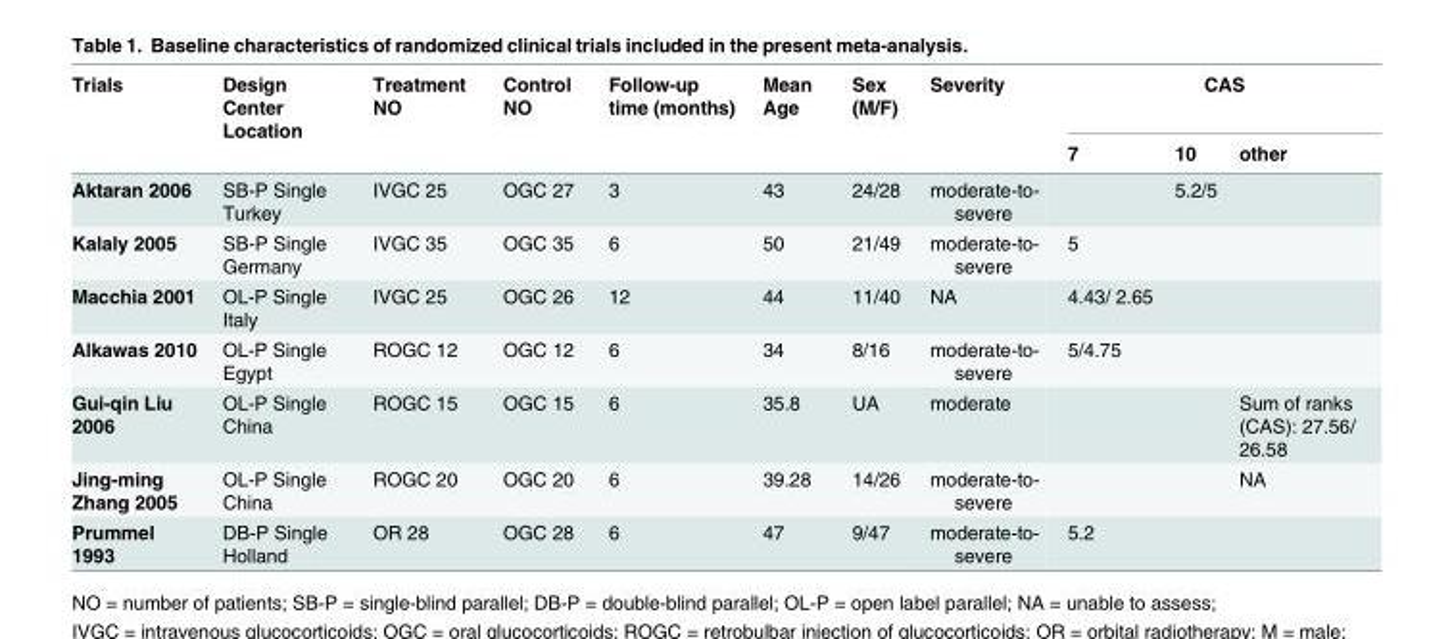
<table><thead><tr><td rowspan="2">Trials</td><td rowspan="2">Design Center Location</td><td rowspan="2">Treatment NO</td><td rowspan="2">Control NO</td><td rowspan="2">Follow-up time (months)</td><td rowspan="2">Mean Age</td><td rowspan="2">Sex (M/F)</td><td rowspan="2">Severity</td><td colspan="3">CAS</td></tr><tr><td>7</td><td>10</td><td>other</td></tr></thead><tbody><tr><td>Aktaran 2006</td><td>SB-P Single Turkey</td><td>IVGC 25</td><td>OGC 27</td><td>3</td><td>43</td><td>24/28</td><td>moderate-to- severe</td><td></td><td>5.2/5</td><td></td></tr><tr><td>Kalaly 2005</td><td>SB-P Single Germany</td><td>IVGC 35</td><td>OGC 35</td><td>6</td><td>50</td><td>21/49</td><td>moderate-to- severe</td><td>5</td><td></td><td></td></tr><tr><td>Macchia 2001</td><td>OL-P Single Italy</td><td>IVGC 25</td><td>OGC 26</td><td>12</td><td>44</td><td>11/40</td><td>NA</td><td>4.43/ 2.65</td><td></td><td></td></tr><tr><td>Alkawas 2010</td><td>OL-P Single Egypt</td><td>ROGC 12</td><td>OGC 12</td><td>6</td><td>34</td><td>8/16</td><td>moderate-to- severe</td><td>5/4.75</td><td></td><td></td></tr><tr><td>Gui-qin Liu 2006</td><td>OL-P Single China</td><td>ROGC 15</td><td>OGC 15</td><td>6</td><td>35.8</td><td>UA</td><td>moderate</td><td></td><td></td><td>Sum of ranks (CAS): 27.56/ 26.58</td></tr><tr><td>Jing-ming Zhang 2005</td><td>OL-P Single China</td><td>ROGC 20</td><td>OGC 20</td><td>6</td><td>39.28</td><td>14/26</td><td>moderate-to- severe</td><td></td><td></td><td>NA</td></tr><tr><td>Prummel 1993</td><td>DB-P Single Holland</td><td>OR 28</td><td>OGC 28</td><td>6</td><td>47</td><td>9/47</td><td>moderate-to- severe</td><td>5.2</td><td></td><td></td></tr></tbody></table>